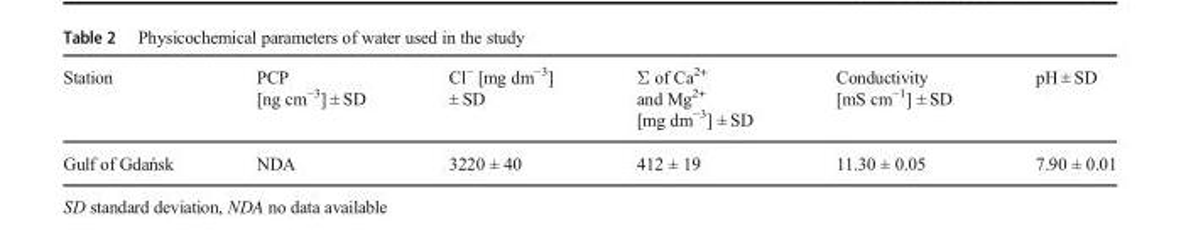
<table><thead><tr><td>Station</td><td>PCP [ng cm<sup>−3</sup>] ± SD</td><td>Cl<sup>−</sup> [mg dm<sup>−3</sup>] ± SD</td><td>Σ of Ca<sup>2+</sup> and Mg<sup>2+</sup> [mg dm<sup>−3</sup>] ± SD</td><td>Conductivity [mS cm<sup>−1</sup>] ± SD</td><td>pH ± SD</td></tr></thead><tbody><tr><td>Gulf of Gdańsk</td><td>NDA</td><td>3220 ± 40</td><td>412 ± 19</td><td>11.30 ± 0.05</td><td>7.90 ± 0.01</td></tr></tbody></table>